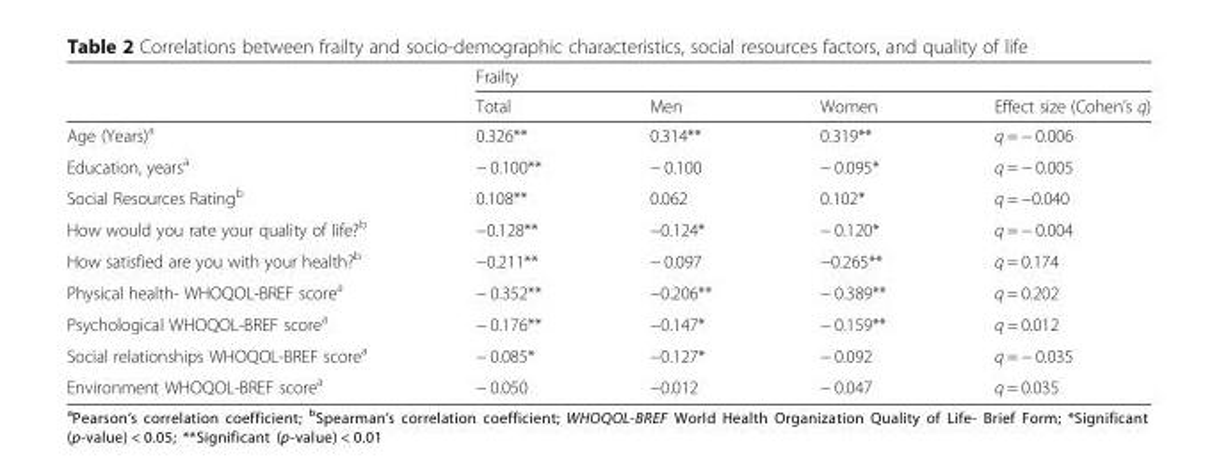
<table><thead><tr><td rowspan="2"></td><td colspan="4">Frailty</td></tr><tr><td>Total</td><td>Men</td><td>Women</td><td>Effect size (Cohen’s q)</td></tr></thead><tbody><tr><td>Age (Years)<sup>a</sup></td><td>0.326**</td><td>0.314**</td><td>0.319**</td><td>q = − 0.006</td></tr><tr><td>Education, years<sup>a</sup></td><td>− 0.100**</td><td>− 0.100</td><td>− 0.095*</td><td>q = − 0.005</td></tr><tr><td>Social Resources Rating<sup>b</sup></td><td>0.108**</td><td>0.062</td><td>0.102*</td><td>q = −0.040</td></tr><tr><td>How would you rate your quality of life?<sup>b</sup></td><td>−0.128**</td><td>−0.124*</td><td>− 0.120*</td><td>q = − 0.004</td></tr><tr><td>How satisfied are you with your health?<sup>b</sup></td><td>−0.211**</td><td>− 0.097</td><td>−0.265**</td><td>q = 0.174</td></tr><tr><td>Physical health- WHOQOL-BREF score<sup>a</sup></td><td>− 0.352**</td><td>−0.206**</td><td>− 0.389**</td><td>q = 0.202</td></tr><tr><td>Psychological WHOQOL-BREF score<sup>a</sup></td><td>− 0.176**</td><td>−0.147*</td><td>− 0.159**</td><td>q = 0.012</td></tr><tr><td>Social relationships WHOQOL-BREF score<sup>a</sup></td><td>− 0.085*</td><td>−0.127*</td><td>− 0.092</td><td>q = − 0.035</td></tr><tr><td>Environment WHOQOL-BREF score<sup>a</sup></td><td>− 0.050</td><td>−0.012</td><td>− 0.047</td><td>q = 0.035</td></tr></tbody></table>